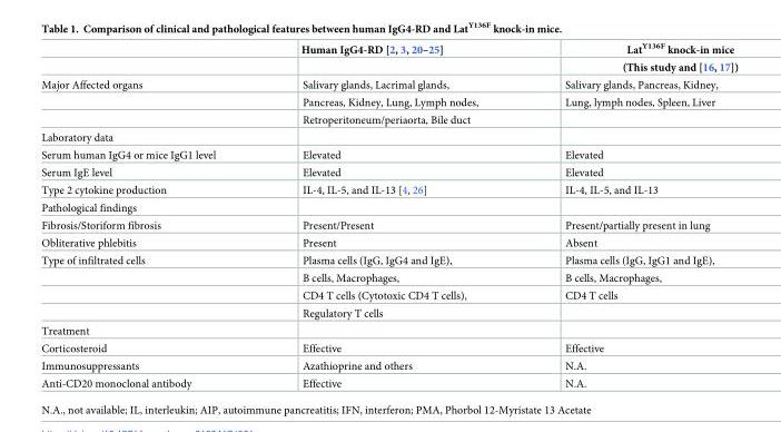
<table><thead><tr><td rowspan="2"></td><td rowspan="2">Human IgG4-RD [2, 3, 20–25]</td><td rowspan="2">Lat<sup>Y136F</sup> knock-in mice (This study and [16, 17])</td></tr><tr></tr></thead><tbody><tr><td rowspan="3">Major Affected organs</td><td>Salivary glands, Lacrimal glands,</td><td>Salivary glands, Pancreas, Kidney,</td></tr><tr><td>Pancreas, Kidney, Lung, Lymph nodes,</td><td>Lung, lymph nodes, Spleen, Liver</td></tr><tr><td>Retroperitoneum/periaorta, Bile duct</td><td></td></tr><tr><td colspan="3">Laboratory data</td></tr><tr><td>Serum human IgG4 or mice IgG1 level</td><td>Elevated</td><td>Elevated</td></tr><tr><td>Serum IgE level</td><td>Elevated</td><td>Elevated</td></tr><tr><td>Type 2 cytokine production</td><td>IL-4, IL-5, and IL-13 [4, 26]</td><td>IL-4, IL-5, and IL-13</td></tr><tr><td colspan="3">Pathological findings</td></tr><tr><td>Fibrosis/Storiform fibrosis</td><td>Present/Present</td><td>Present/partially present in lung</td></tr><tr><td>Obliterative phlebitis</td><td>Present</td><td>Absent</td></tr><tr><td rowspan="4">Type of infiltrated cells</td><td>Plasma cells (IgG, IgG4 and IgE),</td><td>Plasma cells (IgG, IgG1 and IgE),</td></tr><tr><td>B cells, Macrophages,</td><td>B cells, Macrophages,</td></tr><tr><td>CD4 T cells (Cytotoxic CD4 T cells),</td><td>CD4 T cells</td></tr><tr><td>Regulatory T cells</td><td></td></tr><tr><td colspan="3">Treatment</td></tr><tr><td>Corticosteroid</td><td>Effective</td><td>Effective</td></tr><tr><td>Immunosuppressants</td><td>Azathioprine and others</td><td>N.A.</td></tr><tr><td>Anti-CD20 monoclonal antibody</td><td>Effective</td><td>N.A.</td></tr></tbody></table>